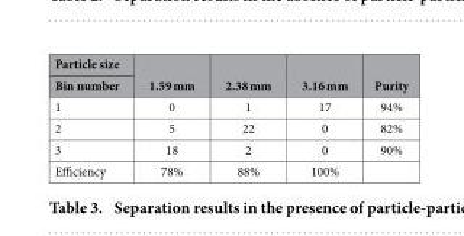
<table><thead><tr><td rowspan="2">Particle size Bin number</td><td rowspan="2">1.59 mm</td><td rowspan="2">2.38 mm</td><td rowspan="2">3.16 mm</td><td rowspan="2">Purity</td></tr><tr></tr></thead><tbody><tr><td>1</td><td>0</td><td>1</td><td>17</td><td>94%</td></tr><tr><td>2</td><td>5</td><td>22</td><td>0</td><td>82%</td></tr><tr><td>3</td><td>18</td><td>2</td><td>0</td><td>90%</td></tr><tr><td>Efficiency</td><td>78%</td><td>88%</td><td>100%</td><td></td></tr></tbody></table>